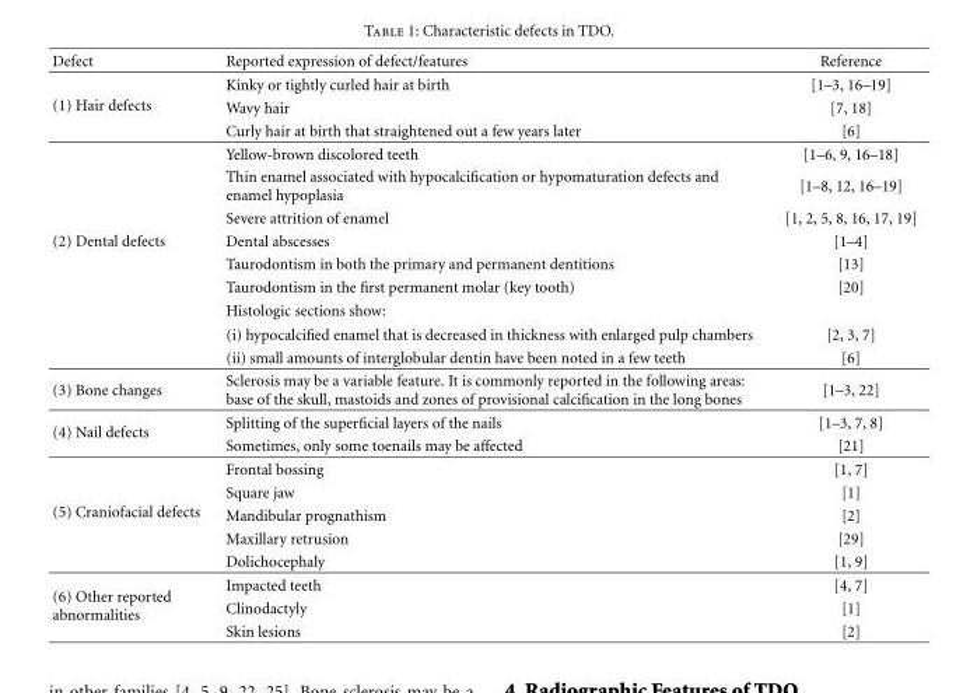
<table><thead><tr><td>Defect</td><td>Reported expression of defect/features</td><td>Reference</td></tr></thead><tbody><tr><td rowspan="3">(1) Hair defects</td><td>Kinky or tightly curled hair at birth</td><td>[1–3, 16–19]</td></tr><tr><td>Wavy hair</td><td>[7, 18]</td></tr><tr><td>Curly hair at birth that straightened out a few years later</td><td>[6]</td></tr><tr><td rowspan="9">(2) Dental defects</td><td>Yellow-brown discolored teeth</td><td>[1–6, 9, 16–18]</td></tr><tr><td>Thin enamel associated with hypocalcification or hypomaturation defects and enamel hypoplasia</td><td>[1–8, 12, 16–19]</td></tr><tr><td>Severe attrition of enamel</td><td>[1, 2, 5, 8, 16, 17, 19]</td></tr><tr><td>Dental abscesses</td><td>[1–4]</td></tr><tr><td>Taurodontism in both the primary and permanent dentitions</td><td>[13]</td></tr><tr><td>Taurodontism in the first permanent molar (key tooth)</td><td>[20]</td></tr><tr><td>Histologic sections show:</td><td></td></tr><tr><td>(i) hypocalcified enamel that is decreased in thickness with enlarged pulp chambers</td><td>[2, 3, 7]</td></tr><tr><td>(ii) small amounts of interglobular dentin have been noted in a few teeth</td><td>[6]</td></tr><tr><td>(3) Bone changes</td><td>Sclerosis may be a variable feature. It is commonly reported in the following areas: base of the skull, mastoids and zones of provisional calcification in the long bones</td><td>[1–3, 22]</td></tr><tr><td rowspan="2">(4) Nail defects</td><td>Splitting of the superficial layers of the nails</td><td>[1–3, 7, 8]</td></tr><tr><td>Sometimes, only some toenails may be affected</td><td>[21]</td></tr><tr><td rowspan="5">(5) Craniofacial defects</td><td>Frontal bossing</td><td>[1, 7]</td></tr><tr><td>Square jaw</td><td>[1]</td></tr><tr><td>Mandibular prognathism</td><td>[2]</td></tr><tr><td>Maxillary retrusion</td><td>[29]</td></tr><tr><td>Dolichocephaly</td><td>[1, 9]</td></tr><tr><td rowspan="3">(6) Other reported abnormalities</td><td>Impacted teeth</td><td>[4, 7]</td></tr><tr><td>Clinodactyly</td><td>[1]</td></tr><tr><td>Skin lesions</td><td>[2]</td></tr></tbody></table>